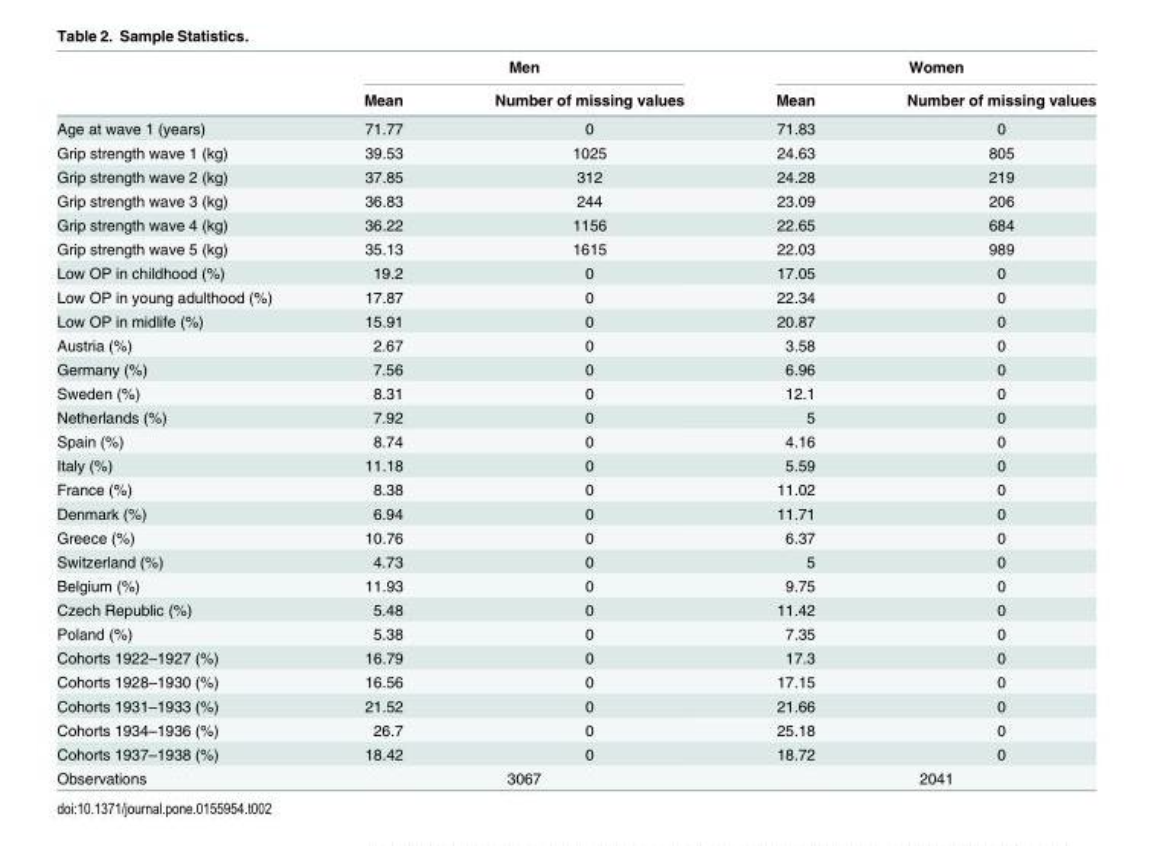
<table><thead><tr><td rowspan="2"></td><td colspan="2">Men</td><td colspan="2">Women</td></tr><tr><td>Mean</td><td>Number of missing values</td><td>Mean</td><td>Number of missing values</td></tr></thead><tbody><tr><td>Age at wave 1 (years)</td><td>71.77</td><td>0</td><td>71.83</td><td>0</td></tr><tr><td>Grip strength wave 1 (kg)</td><td>39.53</td><td>1025</td><td>24.63</td><td>805</td></tr><tr><td>Grip strength wave 2 (kg)</td><td>37.85</td><td>312</td><td>24.28</td><td>219</td></tr><tr><td>Grip strength wave 3 (kg)</td><td>36.83</td><td>244</td><td>23.09</td><td>206</td></tr><tr><td>Grip strength wave 4 (kg)</td><td>36.22</td><td>1156</td><td>22.65</td><td>684</td></tr><tr><td>Grip strength wave 5 (kg)</td><td>35.13</td><td>1615</td><td>22.03</td><td>989</td></tr><tr><td>Low OP in childhood (%)</td><td>19.2</td><td>0</td><td>17.05</td><td>0</td></tr><tr><td>Low OP in young adulthood (%)</td><td>17.87</td><td>0</td><td>22.34</td><td>0</td></tr><tr><td>Low OP in midlife (%)</td><td>15.91</td><td>0</td><td>20.87</td><td>0</td></tr><tr><td>Austria (%)</td><td>2.67</td><td>0</td><td>3.58</td><td>0</td></tr><tr><td>Germany (%)</td><td>7.56</td><td>0</td><td>6.96</td><td>0</td></tr><tr><td>Sweden (%)</td><td>8.31</td><td>0</td><td>12.1</td><td>0</td></tr><tr><td>Netherlands (%)</td><td>7.92</td><td>0</td><td>5</td><td>0</td></tr><tr><td>Spain (%)</td><td>8.74</td><td>0</td><td>4.16</td><td>0</td></tr><tr><td>Italy (%)</td><td>11.18</td><td>0</td><td>5.59</td><td>0</td></tr><tr><td>France (%)</td><td>8.38</td><td>0</td><td>11.02</td><td>0</td></tr><tr><td>Denmark (%)</td><td>6.94</td><td>0</td><td>11.71</td><td>0</td></tr><tr><td>Greece (%)</td><td>10.76</td><td>0</td><td>6.37</td><td>0</td></tr><tr><td>Switzerland (%)</td><td>4.73</td><td>0</td><td>5</td><td>0</td></tr><tr><td>Belgium (%)</td><td>11.93</td><td>0</td><td>9.75</td><td>0</td></tr><tr><td>Czech Republic (%)</td><td>5.48</td><td>0</td><td>11.42</td><td>0</td></tr><tr><td>Poland (%)</td><td>5.38</td><td>0</td><td>7.35</td><td>0</td></tr><tr><td>Cohorts 1922–1927 (%)</td><td>16.79</td><td>0</td><td>17.3</td><td>0</td></tr><tr><td>Cohorts 1928–1930 (%)</td><td>16.56</td><td>0</td><td>17.15</td><td>0</td></tr><tr><td>Cohorts 1931–1933 (%)</td><td>21.52</td><td>0</td><td>21.66</td><td>0</td></tr><tr><td>Cohorts 1934–1936 (%)</td><td>26.7</td><td>0</td><td>25.18</td><td>0</td></tr><tr><td>Cohorts 1937–1938 (%)</td><td>18.42</td><td>0</td><td>18.72</td><td>0</td></tr><tr><td>Observations</td><td colspan="2">3067</td><td colspan="2">2041</td></tr></tbody></table>